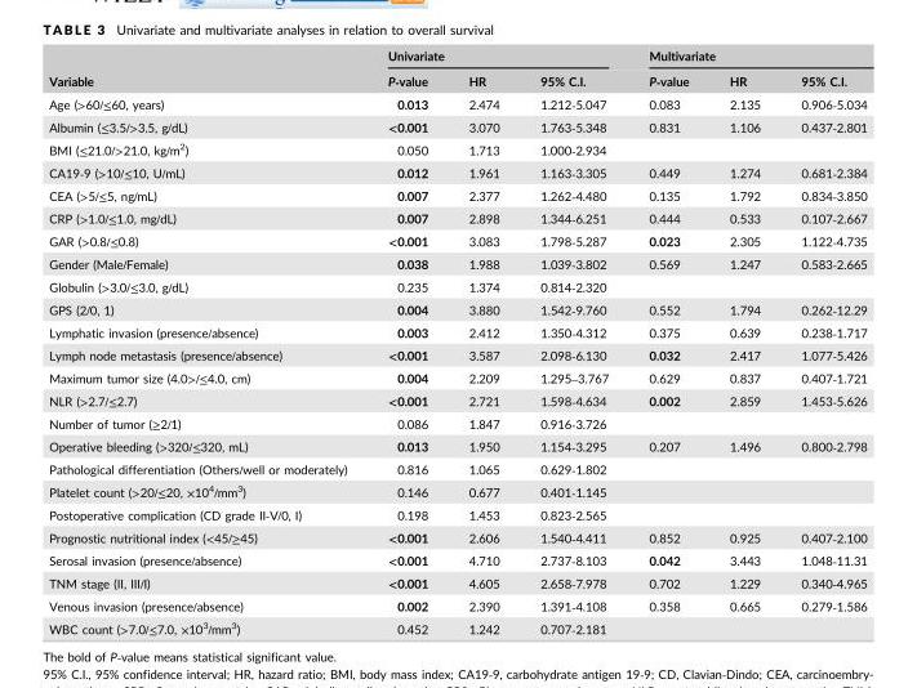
<table><thead><tr><td rowspan="2">Variable</td><td colspan="3">Univariate</td><td colspan="3">Multivariate</td></tr><tr><td>P‐value</td><td>HR</td><td>95% C.I.</td><td>P‐value</td><td>HR</td><td>95% C.I.</td></tr></thead><tbody><tr><td>Age (&gt;60/≤60, years)</td><td>0.013</td><td>2.474</td><td>1.212‐5.047</td><td>0.083</td><td>2.135</td><td>0.906‐5.034</td></tr><tr><td>Albumin (≤3.5/&gt;3.5, g/dL)</td><td>&lt;0.001</td><td>3.070</td><td>1.763‐5.348</td><td>0.831</td><td>1.106</td><td>0.437‐2.801</td></tr><tr><td>BMI (≤21.0/&gt;21.0, kg/m<sup>2</sup>)</td><td>0.050</td><td>1.713</td><td>1.000‐2.934</td><td></td><td></td><td></td></tr><tr><td>CA19‐9 (&gt;10/≤10, U/mL)</td><td>0.012</td><td>1.961</td><td>1.163‐3.305</td><td>0.449</td><td>1.274</td><td>0.681‐2.384</td></tr><tr><td>CEA (&gt;5/≤5, ng/mL)</td><td>0.007</td><td>2.377</td><td>1.262‐4.480</td><td>0.135</td><td>1.792</td><td>0.834‐3.850</td></tr><tr><td>CRP (&gt;1.0/≤1.0, mg/dL)</td><td>0.007</td><td>2.898</td><td>1.344‐6.251</td><td>0.444</td><td>0.533</td><td>0.107‐2.667</td></tr><tr><td>GAR (&gt;0.8/≤0.8)</td><td>&lt;0.001</td><td>3.083</td><td>1.798‐5.287</td><td>0.023</td><td>2.305</td><td>1.122‐4.735</td></tr><tr><td>Gender (Male/Female)</td><td>0.038</td><td>1.988</td><td>1.039‐3.802</td><td>0.569</td><td>1.247</td><td>0.583‐2.665</td></tr><tr><td>Globulin (&gt;3.0/≤3.0, g/dL)</td><td>0.235</td><td>1.374</td><td>0.814‐2.320</td><td></td><td></td><td></td></tr><tr><td>GPS (2/0, 1)</td><td>0.004</td><td>3.880</td><td>1.542‐9.760</td><td>0.552</td><td>1.794</td><td>0.262‐12.29</td></tr><tr><td>Lymphatic invasion (presence/absence)</td><td>0.003</td><td>2.412</td><td>1.350‐4.312</td><td>0.375</td><td>0.639</td><td>0.238‐1.717</td></tr><tr><td>Lymph node metastasis (presence/absence)</td><td>&lt;0.001</td><td>3.587</td><td>2.098‐6.130</td><td>0.032</td><td>2.417</td><td>1.077‐5.426</td></tr><tr><td>Maximum tumor size (4.0&gt;/≤4.0, cm)</td><td>0.004</td><td>2.209</td><td>1.295–3.767</td><td>0.629</td><td>0.837</td><td>0.407‐1.721</td></tr><tr><td>NLR (&gt;2.7/≤2.7)</td><td>&lt;0.001</td><td>2.721</td><td>1.598‐4.634</td><td>0.002</td><td>2.859</td><td>1.453‐5.626</td></tr><tr><td>Number of tumor (≥2/1)</td><td>0.086</td><td>1.847</td><td>0.916‐3.726</td><td></td><td></td><td></td></tr><tr><td>Operative bleeding (&gt;320/≤320, mL)</td><td>0.013</td><td>1.950</td><td>1.154‐3.295</td><td>0.207</td><td>1.496</td><td>0.800‐2.798</td></tr><tr><td>Pathological differentiation (Others/well or moderately)</td><td>0.816</td><td>1.065</td><td>0.629‐1.802</td><td></td><td></td><td></td></tr><tr><td>Platelet count (&gt;20/≤20, ×10<sup>4</sup>/mm<sup>3</sup>)</td><td>0.146</td><td>0.677</td><td>0.401‐1.145</td><td></td><td></td><td></td></tr><tr><td>Postoperative complication (CD grade II‐V/0, I)</td><td>0.198</td><td>1.453</td><td>0.823‐2.565</td><td></td><td></td><td></td></tr><tr><td>Prognostic nutritional index (&lt;45/≥45)</td><td>&lt;0.001</td><td>2.606</td><td>1.540‐4.411</td><td>0.852</td><td>0.925</td><td>0.407‐2.100</td></tr><tr><td>Serosal invasion (presence/absence)</td><td>&lt;0.001</td><td>4.710</td><td>2.737‐8.103</td><td>0.042</td><td>3.443</td><td>1.048‐11.31</td></tr><tr><td>TNM stage (II, III/I)</td><td>&lt;0.001</td><td>4.605</td><td>2.658‐7.978</td><td>0.702</td><td>1.229</td><td>0.340‐4.965</td></tr><tr><td>Venous invasion (presence/absence)</td><td>0.002</td><td>2.390</td><td>1.391‐4.108</td><td>0.358</td><td>0.665</td><td>0.279‐1.586</td></tr><tr><td>WBC count (&gt;7.0/≤7.0, ×10<sup>3</sup>/mm<sup>3</sup>)</td><td>0.452</td><td>1.242</td><td>0.707‐2.181</td><td></td><td></td><td></td></tr></tbody></table>